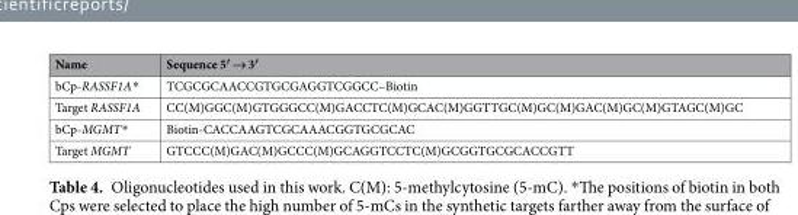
<table><thead><tr><td>Name</td><td>Sequence 5′ → 3′</td></tr></thead><tbody><tr><td>bCp-RASSF1A*</td><td>TCGCGCAACCGTGCGAGGTCGGCC–Biotin</td></tr><tr><td>Target RASSF1A</td><td>CC(M)GGC(M)GTGGGCC(M)GACCTC(M)GCAC(M)GGTTGC(M)GC(M)GAC(M)GC(M)GTAGC(M)GC</td></tr><tr><td>bCp-MGMT*</td><td>Biotin-CACCAAGTCGCAAACGGTGCGCAC</td></tr><tr><td>Target MGMT</td><td>GTCCC(M)GAC(M)GCCC(M)GCAGGTCCTC(M)GCGGTGCGCACCGTT</td></tr></tbody></table>